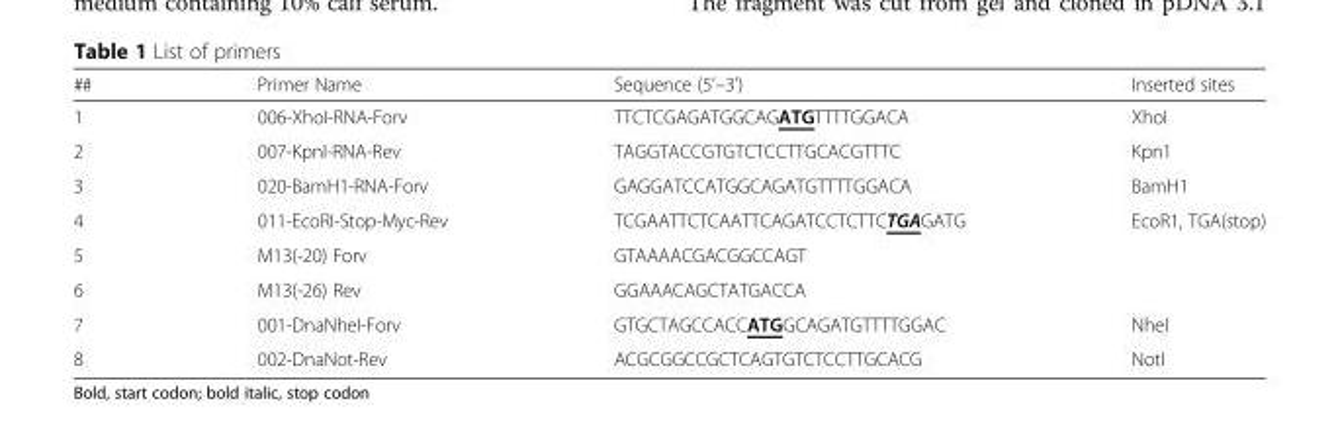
<table><thead><tr><td>##</td><td>Primer Name</td><td>Sequence (5’–3’)</td><td>Inserted sites</td></tr></thead><tbody><tr><td>1</td><td>006-XhoI-RNA-Forv</td><td>TTCTCGAGATGGCAGATGTTTTGGACA</td><td>XhoI</td></tr><tr><td>2</td><td>007-KpnI-RNA-Rev</td><td>TAGGTACCGTGTCTCCTTGCACGTTTC</td><td>Kpn1</td></tr><tr><td>3</td><td>020-BamH1-RNA-Forv</td><td>GAGGATCCATGGCAGATGTTTTGGACA</td><td>BamH1</td></tr><tr><td>4</td><td>011-EcoRI-Stop-Myc-Rev</td><td>TCGAATTCTCAATTCAGATCCTCTTCTGAGATG</td><td>EcoR1, TGA(stop)</td></tr><tr><td>5</td><td>M13(-20) Forv</td><td>GTAAAACGACGGCCAGT</td><td></td></tr><tr><td>6</td><td>M13(-26) Rev</td><td>GGAAACAGCTATGACCA</td><td></td></tr><tr><td>7</td><td>001-DnaNheI-Forv</td><td>GTGCTAGCCACCATGGCAGATGTTTTGGAC</td><td>NheI</td></tr><tr><td>8</td><td>002-DnaNot-Rev</td><td>ACGCGGCCGCTCAGTGTCTCCTTGCACG</td><td>NotI</td></tr></tbody></table>